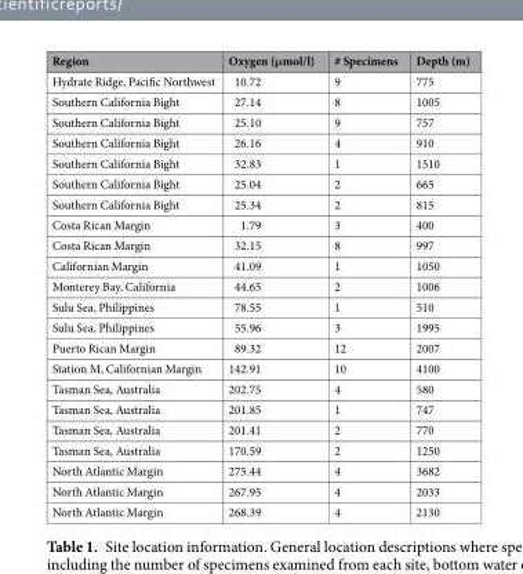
<table><thead><tr><td>Region</td><td>Oxygen (μmol/l)</td><td># Specimens</td><td>Depth (m)</td></tr></thead><tbody><tr><td>Hydrate Ridge, Pacific Northwest</td><td>10.72</td><td>9</td><td>775</td></tr><tr><td>Southern California Bight</td><td>27.14</td><td>8</td><td>1005</td></tr><tr><td>Southern California Bight</td><td>25.10</td><td>9</td><td>757</td></tr><tr><td>Southern California Bight</td><td>26.16</td><td>4</td><td>910</td></tr><tr><td>Southern California Bight</td><td>32.83</td><td>1</td><td>1510</td></tr><tr><td>Southern California Bight</td><td>25.04</td><td>2</td><td>665</td></tr><tr><td>Southern California Bight</td><td>25.34</td><td>2</td><td>815</td></tr><tr><td>Costa Rican Margin</td><td>1.79</td><td>3</td><td>400</td></tr><tr><td>Costa Rican Margin</td><td>32.15</td><td>8</td><td>997</td></tr><tr><td>Californian Margin</td><td>41.09</td><td>1</td><td>1050</td></tr><tr><td>Monterey Bay, California</td><td>44.65</td><td>2</td><td>1006</td></tr><tr><td>Sulu Sea, Philippines</td><td>78.55</td><td>1</td><td>510</td></tr><tr><td>Sulu Sea, Philippines</td><td>55.96</td><td>3</td><td>1995</td></tr><tr><td>Puerto Rican Margin</td><td>89.32</td><td>12</td><td>2007</td></tr><tr><td>Station M, Californian Margin</td><td>142.91</td><td>10</td><td>4100</td></tr><tr><td>Tasman Sea, Australia</td><td>202.75</td><td>4</td><td>580</td></tr><tr><td>Tasman Sea, Australia</td><td>201.85</td><td>1</td><td>747</td></tr><tr><td>Tasman Sea, Australia</td><td>201.41</td><td>2</td><td>770</td></tr><tr><td>Tasman Sea, Australia</td><td>170.59</td><td>2</td><td>1250</td></tr><tr><td>North Atlantic Margin</td><td>275.44</td><td>4</td><td>3682</td></tr><tr><td>North Atlantic Margin</td><td>267.95</td><td>4</td><td>2033</td></tr><tr><td>North Atlantic Margin</td><td>268.39</td><td>4</td><td>2130</td></tr></tbody></table>